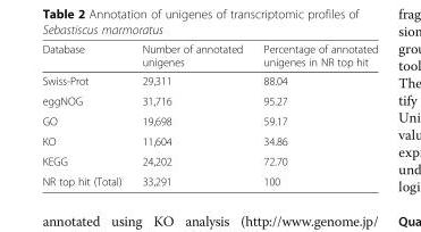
<table><thead><tr><td>Database</td><td>Number of annotated unigenes</td><td>Percentage of annotated unigenes in NR top hit</td></tr></thead><tbody><tr><td>Swiss-Prot</td><td>29,311</td><td>88.04</td></tr><tr><td>eggNOG</td><td>31,716</td><td>95.27</td></tr><tr><td>GO</td><td>19,698</td><td>59.17</td></tr><tr><td>KO</td><td>11,604</td><td>34.86</td></tr><tr><td>KEGG</td><td>24,202</td><td>72.70</td></tr><tr><td>NR top hit (Total)</td><td>33,291</td><td>100</td></tr></tbody></table>